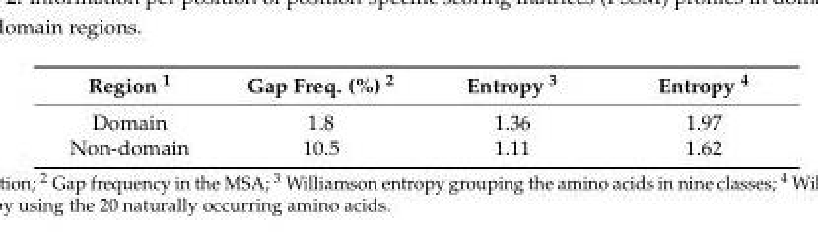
<table><thead><tr><td>Region <sup>1</sup></td><td>Gap Freq. (%) <sup>2</sup></td><td>Entropy <sup>3</sup></td><td>Entropy <sup>4</sup></td></tr></thead><tbody><tr><td>Domain</td><td>1.8</td><td>1.36</td><td>1.97</td></tr><tr><td>Non-domain</td><td>10.5</td><td>1.11</td><td>1.62</td></tr></tbody></table>